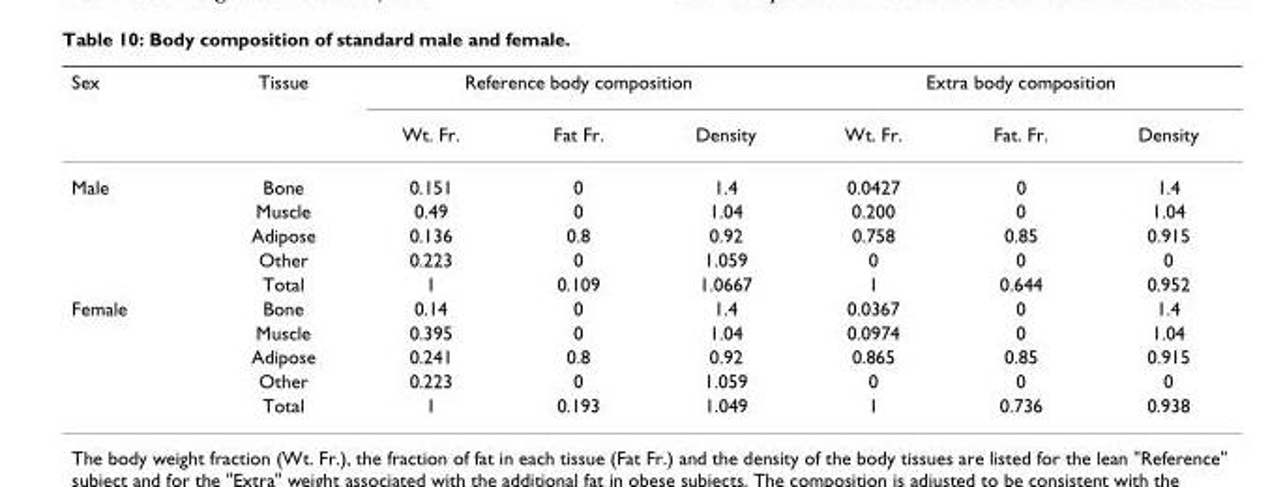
<table><thead><tr><td rowspan="2">Sex</td><td rowspan="2">Tissue</td><td colspan="3">Reference body composition</td><td colspan="3">Extra body composition</td></tr><tr><td>Wt. Fr.</td><td>Fat Fr.</td><td>Density</td><td>Wt. Fr.</td><td>Fat. Fr.</td><td>Density</td></tr></thead><tbody><tr><td rowspan="5">Male</td><td>Bone</td><td>0.151</td><td>0</td><td>1.4</td><td>0.0427</td><td>0</td><td>1.4</td></tr><tr><td>Muscle</td><td>0.49</td><td>0</td><td>1.04</td><td>0.200</td><td>0</td><td>1.04</td></tr><tr><td>Adipose</td><td>0.136</td><td>0.8</td><td>0.92</td><td>0.758</td><td>0.85</td><td>0.915</td></tr><tr><td>Other</td><td>0.223</td><td>0</td><td>1.059</td><td>0</td><td>0</td><td>0</td></tr><tr><td>Total</td><td>1</td><td>0.109</td><td>1.0667</td><td>1</td><td>0.644</td><td>0.952</td></tr><tr><td rowspan="5">Female</td><td>Bone</td><td>0.14</td><td>0</td><td>1.4</td><td>0.0367</td><td>0</td><td>1.4</td></tr><tr><td>Muscle</td><td>0.395</td><td>0</td><td>1.04</td><td>0.0974</td><td>0</td><td>1.04</td></tr><tr><td>Adipose</td><td>0.241</td><td>0.8</td><td>0.92</td><td>0.865</td><td>0.85</td><td>0.915</td></tr><tr><td>Other</td><td>0.223</td><td>0</td><td>1.059</td><td>0</td><td>0</td><td>0</td></tr><tr><td>Total</td><td>1</td><td>0.193</td><td>1.049</td><td>1</td><td>0.736</td><td>0.938</td></tr></tbody></table>